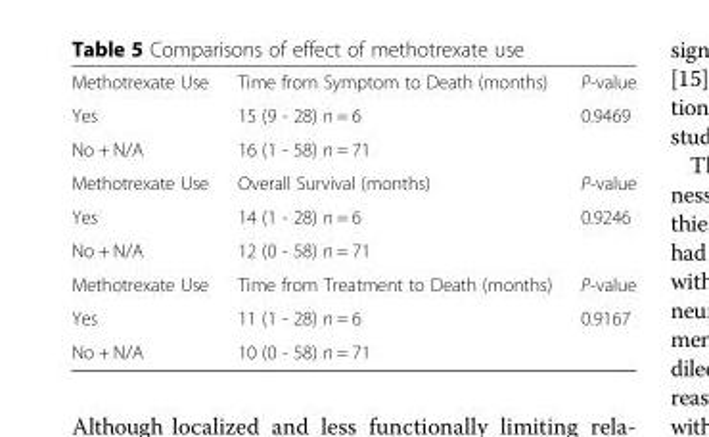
<table><tbody><tr><td>Methotrexate Use</td><td>Time from Symptom to Death (months)</td><td>P-value</td></tr><tr><td>Yes</td><td>15 (9 - 28) n = 6</td><td rowspan="2">0.9469</td></tr><tr><td>No + N/A</td><td>16 (1 - 58) n = 71</td></tr><tr><td>Methotrexate Use</td><td>Overall Survival (months)</td><td>P-value</td></tr><tr><td>Yes</td><td>14 (1 - 28) n = 6</td><td rowspan="2">0.9246</td></tr><tr><td>No + N/A</td><td>12 (0 - 58) n = 71</td></tr><tr><td>Methotrexate Use</td><td>Time from Treatment to Death (months)</td><td>P-value</td></tr><tr><td>Yes</td><td>11 (1 - 28) n = 6</td><td rowspan="2">0.9167</td></tr><tr><td>No + N/A</td><td>10 (0 - 58) n = 71</td></tr></tbody></table>